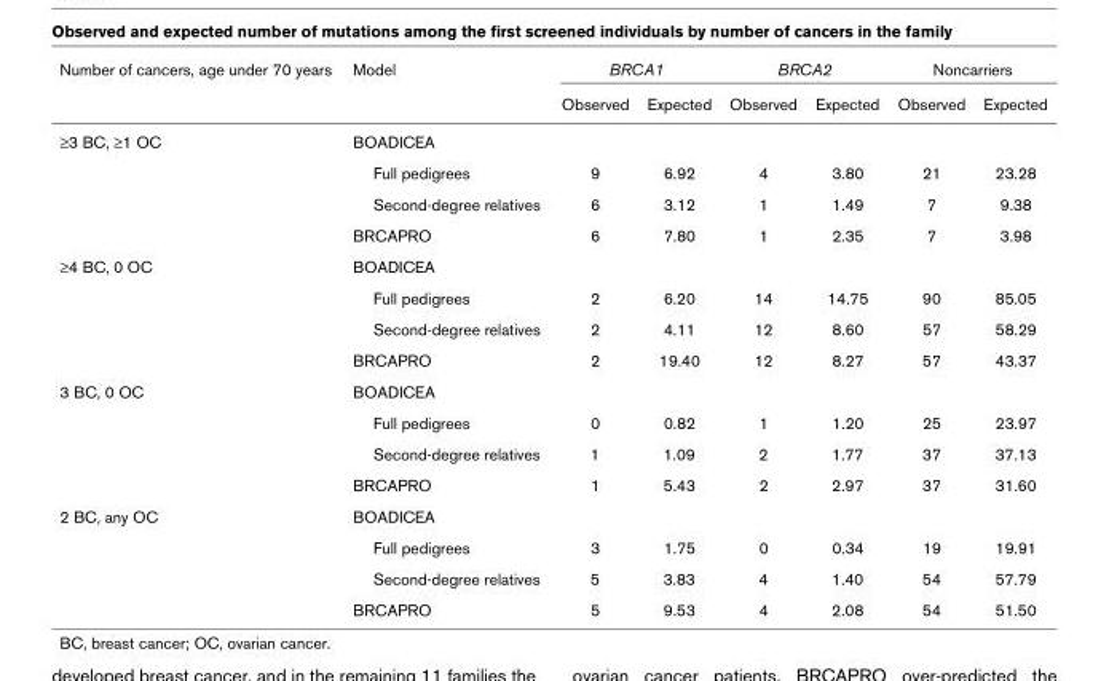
<table><thead><tr><td rowspan="2">Number of cancers, age under 70 years</td><td rowspan="2">Model</td><td colspan="2">BRCA1</td><td colspan="2">BRCA2</td><td colspan="2">Noncarriers</td></tr><tr><td>Observed</td><td>Expected</td><td>Observed</td><td>Expected</td><td>Observed</td><td>Expected</td></tr></thead><tbody><tr><td rowspan="4">≥3 BC, ≥1 OC</td><td colspan="7">BOADICEA</td></tr><tr><td>Full pedigrees</td><td>9</td><td>6.92</td><td>4</td><td>3.80</td><td>21</td><td>23.28</td></tr><tr><td>Second-degree relatives</td><td>6</td><td>3.12</td><td>1</td><td>1.49</td><td>7</td><td>9.38</td></tr><tr><td>BRCAPRO</td><td>6</td><td>7.80</td><td>1</td><td>2.35</td><td>7</td><td>3.98</td></tr><tr><td rowspan="4">≥4 BC, 0 OC</td><td colspan="7">BOADICEA</td></tr><tr><td>Full pedigrees</td><td>2</td><td>6.20</td><td>14</td><td>14.75</td><td>90</td><td>85.05</td></tr><tr><td>Second-degree relatives</td><td>2</td><td>4.11</td><td>12</td><td>8.60</td><td>57</td><td>58.29</td></tr><tr><td>BRCAPRO</td><td>2</td><td>19.40</td><td>12</td><td>8.27</td><td>57</td><td>43.37</td></tr><tr><td rowspan="4">3 BC, 0 OC</td><td colspan="7">BOADICEA</td></tr><tr><td>Full pedigrees</td><td>0</td><td>0.82</td><td>1</td><td>1.20</td><td>25</td><td>23.97</td></tr><tr><td>Second-degree relatives</td><td>1</td><td>1.09</td><td>2</td><td>1.77</td><td>37</td><td>37.13</td></tr><tr><td>BRCAPRO</td><td>1</td><td>5.43</td><td>2</td><td>2.97</td><td>37</td><td>31.60</td></tr><tr><td rowspan="4">2 BC, any OC</td><td colspan="7">BOADICEA</td></tr><tr><td>Full pedigrees</td><td>3</td><td>1.75</td><td>0</td><td>0.34</td><td>19</td><td>19.91</td></tr><tr><td>Second-degree relatives</td><td>5</td><td>3.83</td><td>4</td><td>1.40</td><td>54</td><td>57.79</td></tr><tr><td>BRCAPRO</td><td>5</td><td>9.53</td><td>4</td><td>2.08</td><td>54</td><td>51.50</td></tr></tbody></table>